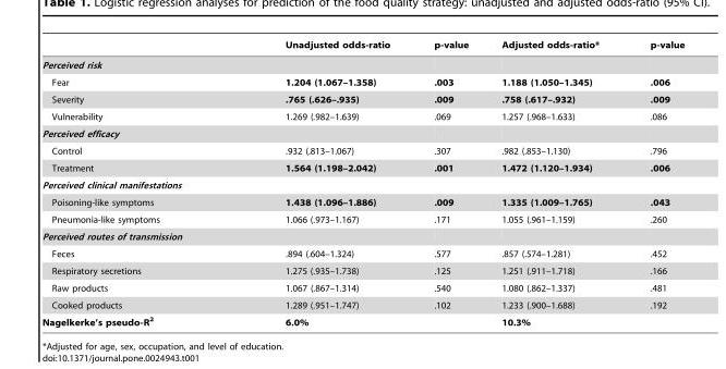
<table><thead><tr><td></td><td>Unadjusted odds-ratio</td><td>p-value</td><td>Adjusted odds-ratio*</td><td>p-value</td></tr></thead><tbody><tr><td colspan="5">Perceived risk</td></tr><tr><td>Fear</td><td>1.204 (1.067–1.358)</td><td>.003</td><td>1.188 (1.050–1.345)</td><td>.006</td></tr><tr><td>Severity</td><td>.765 (.626–.935)</td><td>.009</td><td>.758 (.617–.932)</td><td>.009</td></tr><tr><td>Vulnerability</td><td>1.269 (.982–1.639)</td><td>.069</td><td>1.257 (.968–1.633)</td><td>.086</td></tr><tr><td colspan="5">Perceived efficacy</td></tr><tr><td>Control</td><td>.932 (.813–1.067)</td><td>.307</td><td>.982 (.853–1.130)</td><td>.796</td></tr><tr><td>Treatment</td><td>1.564 (1.198–2.042)</td><td>.001</td><td>1.472 (1.120–1.934)</td><td>.006</td></tr><tr><td colspan="5">Perceived clinical manifestations</td></tr><tr><td>Poisoning-like symptoms</td><td>1.438 (1.096–1.886)</td><td>.009</td><td>1.335 (1.009–1.765)</td><td>.043</td></tr><tr><td>Pneumonia-like symptoms</td><td>1.066 (.973–1.167)</td><td>.171</td><td>1.055 (.961–1.159)</td><td>.260</td></tr><tr><td colspan="5">Perceived routes of transmission</td></tr><tr><td>Feces</td><td>.894 (.604–1.324)</td><td>.577</td><td>.857 (.574–1.281)</td><td>.452</td></tr><tr><td>Respiratory secretions</td><td>1.275 (.935–1.738)</td><td>.125</td><td>1.251 (.911–1.718)</td><td>.166</td></tr><tr><td>Raw products</td><td>1.067 (.867–1.314)</td><td>.540</td><td>1.080 (.862–1.337)</td><td>.481</td></tr><tr><td>Cooked products</td><td>1.289 (.951–1.747)</td><td>.102</td><td>1.233 (.900–1.688)</td><td>.192</td></tr><tr><td>Nagelkerke’s pseudo-R<sup>2</sup></td><td>6.0%</td><td></td><td>10.3%</td><td></td></tr></tbody></table>